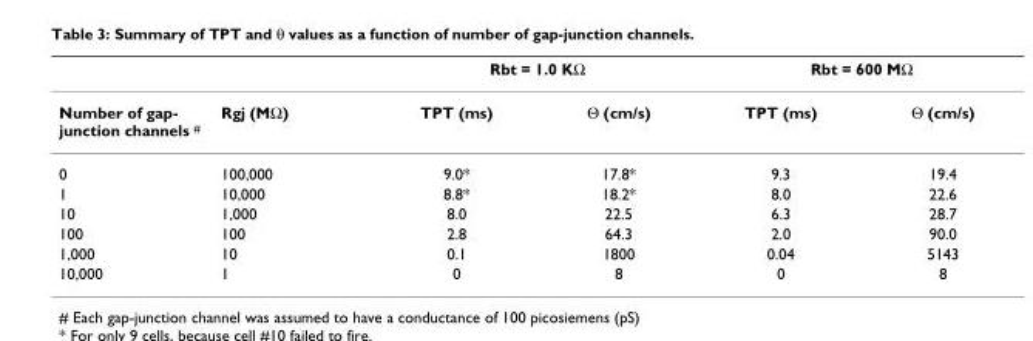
<table><thead><tr><td rowspan="2">Number of gap- junction channels <sup>#</sup></td><td rowspan="2">Rgj (MΩ)</td><td colspan="2">Rbt = 1.0 KΩ</td><td colspan="2">Rbt = 600 MΩ</td></tr><tr><td>TPT (ms)</td><td>Θ (cm/s)</td><td>TPT (ms)</td><td>Θ (cm/s)</td></tr></thead><tbody><tr><td>0</td><td>100,000</td><td>9.0*</td><td>17.8*</td><td>9.3</td><td>19.4</td></tr><tr><td>1</td><td>10,000</td><td>8.8*</td><td>18.2*</td><td>8.0</td><td>22.6</td></tr><tr><td>10</td><td>1,000</td><td>8.0</td><td>22.5</td><td>6.3</td><td>28.7</td></tr><tr><td>100</td><td>100</td><td>2.8</td><td>64.3</td><td>2.0</td><td>90.0</td></tr><tr><td>1,000</td><td>10</td><td>0.1</td><td>1800</td><td>0.04</td><td>5143</td></tr><tr><td>10,000</td><td>1</td><td>0</td><td>8</td><td>0</td><td>8</td></tr></tbody></table>